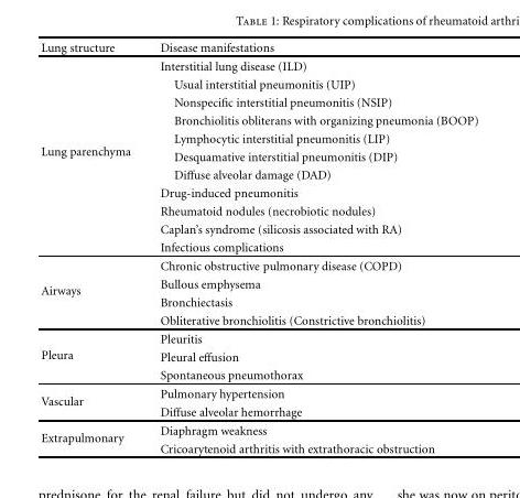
<table><thead><tr><td>Lung structure</td><td>Disease manifestations</td></tr></thead><tbody><tr><td rowspan="11">Lung parenchyma</td><td>Interstitial lung disease (ILD)</td></tr><tr><td>Usual interstitial pneumonitis (UIP)</td></tr><tr><td>Nonspecific interstitial pneumonitis (NSIP)</td></tr><tr><td>Bronchiolitis obliterans with organizing pneumonia (BOOP)</td></tr><tr><td>Lymphocytic interstitial pneumonitis (LIP)</td></tr><tr><td>Desquamative interstitial pneumonitis (DIP)</td></tr><tr><td>Diffuse alveolar damage (DAD)</td></tr><tr><td>Drug-induced pneumonitis</td></tr><tr><td>Rheumatoid nodules (necrobiotic nodules)</td></tr><tr><td>Caplan’s syndrome (silicosis associated with RA)</td></tr><tr><td>Infectious complications</td></tr><tr><td rowspan="4">Airways</td><td>Chronic obstructive pulmonary disease (COPD)</td></tr><tr><td>Bullous emphysema</td></tr><tr><td>Bronchiectasis</td></tr><tr><td>Obliterative bronchiolitis (Constrictive bronchiolitis)</td></tr><tr><td rowspan="3">Pleura</td><td>Pleuritis</td></tr><tr><td>Pleural effusion</td></tr><tr><td>Spontaneous pneumothorax</td></tr><tr><td rowspan="2">Vascular</td><td>Pulmonary hypertension</td></tr><tr><td>Diffuse alveolar hemorrhage</td></tr><tr><td rowspan="2">Extrapulmonary</td><td>Diaphragm weakness</td></tr><tr><td>Cricoarytenoid arthritis with extrathoracic obstruction</td></tr></tbody></table>